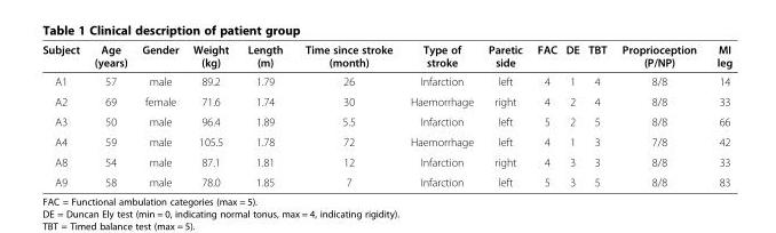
<table><thead><tr><td>Subject</td><td>Age (years)</td><td>Gender</td><td>Weight (kg)</td><td>Length (m)</td><td>Time since stroke (month)</td><td>Type of stroke</td><td>Paretic side</td><td>FAC</td><td>DE</td><td>TBT</td><td>Proprioception (P/NP)</td><td>MI leg</td></tr></thead><tbody><tr><td>A1</td><td>57</td><td>male</td><td>89.2</td><td>1.79</td><td>26</td><td>Infarction</td><td>left</td><td>4</td><td>1</td><td>4</td><td>8/8</td><td>14</td></tr><tr><td>A2</td><td>69</td><td>female</td><td>71.6</td><td>1.74</td><td>30</td><td>Haemorrhage</td><td>right</td><td>4</td><td>2</td><td>4</td><td>8/8</td><td>33</td></tr><tr><td>A3</td><td>50</td><td>male</td><td>96.4</td><td>1.89</td><td>5.5</td><td>Infarction</td><td>left</td><td>5</td><td>2</td><td>5</td><td>8/8</td><td>66</td></tr><tr><td>A4</td><td>59</td><td>male</td><td>105.5</td><td>1.78</td><td>72</td><td>Haemorrhage</td><td>left</td><td>4</td><td>1</td><td>3</td><td>7/8</td><td>42</td></tr><tr><td>A8</td><td>54</td><td>male</td><td>87.1</td><td>1.81</td><td>12</td><td>Infarction</td><td>right</td><td>4</td><td>3</td><td>3</td><td>8/8</td><td>33</td></tr><tr><td>A9</td><td>58</td><td>male</td><td>78.0</td><td>1.85</td><td>7</td><td>Infarction</td><td>left</td><td>5</td><td>3</td><td>5</td><td>8/8</td><td>83</td></tr></tbody></table>